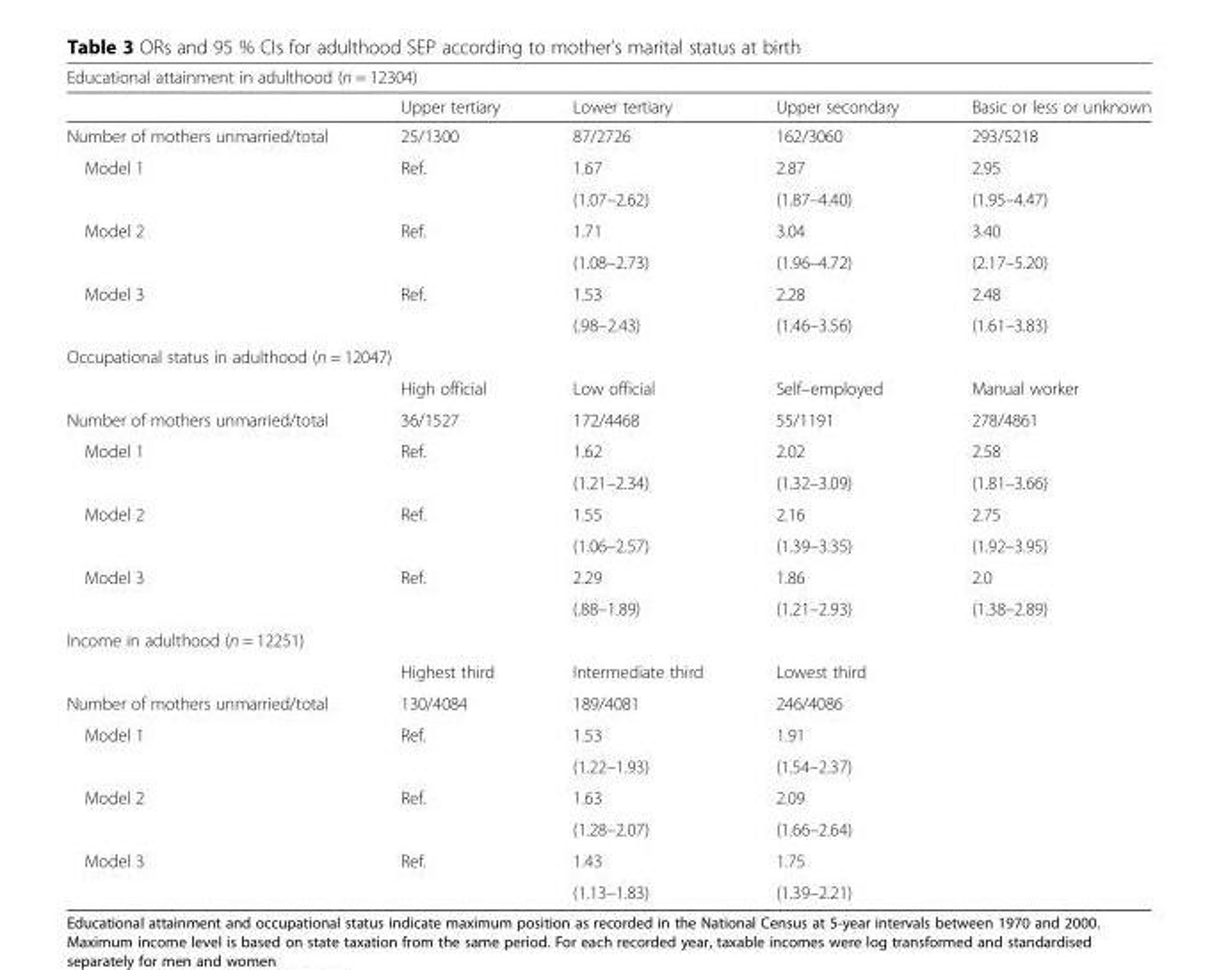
<table><thead><tr><td colspan="5">Educational attainment in adulthood (n = 12304)</td></tr><tr><td></td><td>Upper tertiary</td><td>Lower tertiary</td><td>Upper secondary</td><td>Basic or less or unknown</td></tr></thead><tbody><tr><td>Number of mothers unmarried/total</td><td>25/1300</td><td>87/2726</td><td>162/3060</td><td>293/5218</td></tr><tr><td rowspan="2">Model 1</td><td rowspan="2">Ref.</td><td>1.67</td><td>2.87</td><td>2.95</td></tr><tr><td>(1.07–2.62)</td><td>(1.87–4.40)</td><td>(1.95–4.47)</td></tr><tr><td rowspan="2">Model 2</td><td rowspan="2">Ref.</td><td>1.71</td><td>3.04</td><td>3.40</td></tr><tr><td>(1.08–2.73)</td><td>(1.96–4.72)</td><td>(2.17–5.20)</td></tr><tr><td rowspan="2">Model 3</td><td rowspan="2">Ref.</td><td>1.53</td><td>2.28</td><td>2.48</td></tr><tr><td>(.98–2.43)</td><td>(1.46–3.56)</td><td>(1.61–3.83)</td></tr><tr><td colspan="5">Occupational status in adulthood (n = 12047)</td></tr><tr><td></td><td>High official</td><td>Low official</td><td>Self–employed</td><td>Manual worker</td></tr><tr><td>Number of mothers unmarried/total</td><td>36/1527</td><td>172/4468</td><td>55/1191</td><td>278/4861</td></tr><tr><td rowspan="2">Model 1</td><td rowspan="2">Ref.</td><td>1.62</td><td>2.02</td><td>2.58</td></tr><tr><td>(1.21–2.34)</td><td>(1.32–3.09)</td><td>(1.81–3.66)</td></tr><tr><td rowspan="2">Model 2</td><td rowspan="2">Ref.</td><td>1.55</td><td>2.16</td><td>2.75</td></tr><tr><td>(1.06–2.57)</td><td>(1.39–3.35)</td><td>(1.92–3.95)</td></tr><tr><td rowspan="2">Model 3</td><td rowspan="2">Ref.</td><td>2.29</td><td>1.86</td><td>2.0</td></tr><tr><td>(.88–1.89)</td><td>(1.21–2.93)</td><td>(1.38–2.89)</td></tr><tr><td colspan="5">Income in adulthood (n = 12251)</td></tr><tr><td></td><td>Highest third</td><td>Intermediate third</td><td colspan="2">Lowest third</td></tr><tr><td>Number of mothers unmarried/total</td><td>130/4084</td><td>189/4081</td><td colspan="2">246/4086</td></tr><tr><td rowspan="2">Model 1</td><td rowspan="2">Ref.</td><td>1.53</td><td colspan="2">1.91</td></tr><tr><td>(1.22–1.93)</td><td colspan="2">(1.54–2.37)</td></tr><tr><td rowspan="2">Model 2</td><td rowspan="2">Ref.</td><td>1.63</td><td colspan="2">2.09</td></tr><tr><td>(1.28–2.07)</td><td colspan="2">(1.66–2.64)</td></tr><tr><td rowspan="2">Model 3</td><td rowspan="2">Ref.</td><td>1.43</td><td colspan="2">1.75</td></tr><tr><td>(1.13–1.83)</td><td colspan="2">(1.39–2.21)</td></tr></tbody></table>